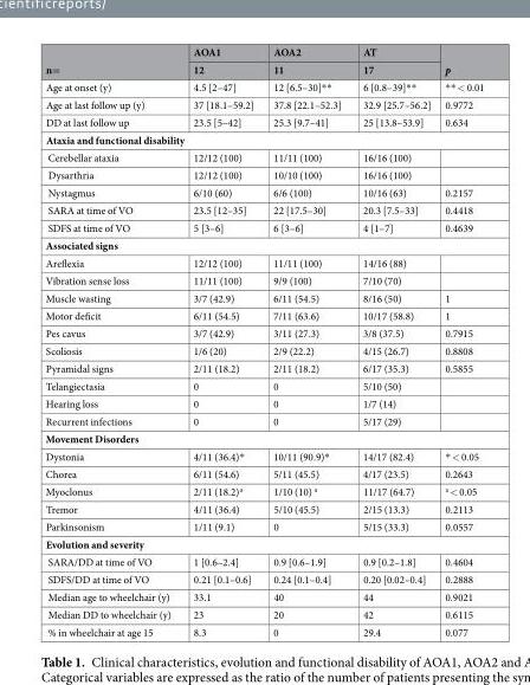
<table><thead><tr><td rowspan="2">n=</td><td rowspan="2">AOA1 12</td><td rowspan="2">AOA2 11</td><td rowspan="2">AT 17</td><td rowspan="2">p</td></tr><tr></tr></thead><tbody><tr><td>Age at onset (y)</td><td>4.5 [2–47]</td><td>12 [6.5–30]**</td><td>6 [0.8–39]**</td><td>** &lt; 0.01</td></tr><tr><td>Age at last follow up (y)</td><td>37 [18.1–59.2]</td><td>37.8 [22.1–52.3]</td><td>32.9 [25.7–56.2]</td><td>0.9772</td></tr><tr><td>DD at last follow up</td><td>23.5 [5–42]</td><td>25.3 [9.7–41]</td><td>25 [13.8–53.9]</td><td>0.634</td></tr><tr><td colspan="5">Ataxia and functional disability</td></tr><tr><td>Cerebellar ataxia</td><td>12/12 (100)</td><td>11/11 (100)</td><td>16/16 (100)</td><td></td></tr><tr><td>Dysarthria</td><td>12/12 (100)</td><td>10/10 (100)</td><td>16/16 (100)</td><td></td></tr><tr><td>Nystagmus</td><td>6/10 (60)</td><td>6/6 (100)</td><td>10/16 (63)</td><td>0.2157</td></tr><tr><td>SARA at time of VO</td><td>23.5 [12–35]</td><td>22 [17.5–30]</td><td>20.3 [7.5–33]</td><td>0.4418</td></tr><tr><td>SDFS at time of VO</td><td>5 [3–6]</td><td>6 [3–6]</td><td>4 [1–7]</td><td>0.4639</td></tr><tr><td colspan="5">Associated signs</td></tr><tr><td>Areflexia</td><td>12/12 (100)</td><td>11/11 (100)</td><td>14/16 (88)</td><td></td></tr><tr><td>Vibration sense loss</td><td>11/11 (100)</td><td>9/9 (100)</td><td>7/10 (70)</td><td></td></tr><tr><td>Muscle wasting</td><td>3/7 (42.9)</td><td>6/11 (54.5)</td><td>8/16 (50)</td><td>1</td></tr><tr><td>Motor deficit</td><td>6/11 (54.5)</td><td>7/11 (63.6)</td><td>10/17 (58.8)</td><td>1</td></tr><tr><td>Pes cavus</td><td>3/7 (42.9)</td><td>3/11 (27.3)</td><td>3/8 (37.5)</td><td>0.7915</td></tr><tr><td>Scoliosis</td><td>1/6 (20)</td><td>2/9 (22.2)</td><td>4/15 (26.7)</td><td>0.8808</td></tr><tr><td>Pyramidal signs</td><td>2/11 (18.2)</td><td>2/11 (18.2)</td><td>6/17 (35.3)</td><td>0.5855</td></tr><tr><td>Telangiectasia</td><td>0</td><td>0</td><td>5/10 (50)</td><td></td></tr><tr><td>Hearing loss</td><td>0</td><td>0</td><td>1/7 (14)</td><td></td></tr><tr><td>Recurrent infections</td><td>0</td><td>0</td><td>5/17 (29)</td><td></td></tr><tr><td colspan="5">Movement Disorders</td></tr><tr><td>Dystonia</td><td>4/11 (36.4)*</td><td>10/11 (90.9)*</td><td>14/17 (82.4)</td><td>* &lt; 0.05</td></tr><tr><td>Chorea</td><td>6/11 (54.6)</td><td>5/11 (45.5)</td><td>4/17 (23.5)</td><td>0.2643</td></tr><tr><td>Myoclonus</td><td>2/11 (18.2)<sup>a</sup></td><td>1/10 (10) <sup>a</sup></td><td>11/17 (64.7)</td><td><sup>a</sup> &lt; 0.05</td></tr><tr><td>Tremor</td><td>4/11 (36.4)</td><td>5/10 (45.5)</td><td>2/15 (13.3)</td><td>0.2113</td></tr><tr><td>Parkinsonism</td><td>1/11 (9.1)</td><td>0</td><td>5/15 (33.3)</td><td>0.0557</td></tr><tr><td colspan="5">Evolution and severity</td></tr><tr><td>SARA/DD at time of VO</td><td>1 [0.6–2.4]</td><td>0.9 [0.6–1.9]</td><td>0.9 [0.2–1.8]</td><td>0.4604</td></tr><tr><td>SDFS/DD at time of VO</td><td>0.21 [0.1–0.6]</td><td>0.24 [0.1–0.4]</td><td>0.20 [0.02–0.4]</td><td>0.2888</td></tr><tr><td>Median age to wheelchair (y)</td><td>33.1</td><td>40</td><td>44</td><td>0.9021</td></tr><tr><td>Median DD to wheelchair (y)</td><td>23</td><td>20</td><td>42</td><td>0.6115</td></tr><tr><td>% in wheelchair at age 15</td><td>8.3</td><td>0</td><td>29.4</td><td>0.077</td></tr></tbody></table>